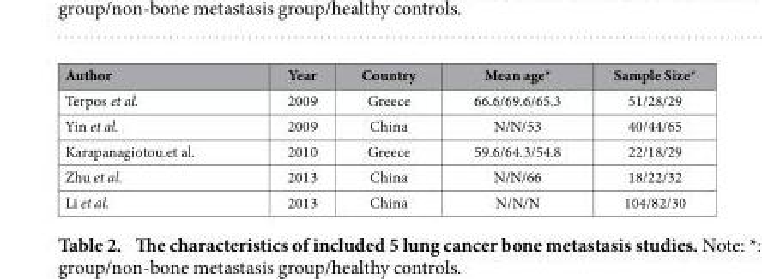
<table><thead><tr><td>Author</td><td>Year</td><td>Country</td><td>Mean age*</td><td>Sample Size*</td></tr></thead><tbody><tr><td>Terpos et al.</td><td>2009</td><td>Greece</td><td>66.6/69.6/65.3</td><td>51/28/29</td></tr><tr><td>Yin et al.</td><td>2009</td><td>China</td><td>N/N/53</td><td>40/44/65</td></tr><tr><td>Karapanagiotou.et al.</td><td>2010</td><td>Greece</td><td>59.6/64.3/54.8</td><td>22/18/29</td></tr><tr><td>Zhu et al.</td><td>2013</td><td>China</td><td>N/N/66</td><td>18/22/32</td></tr><tr><td>Li et al.</td><td>2013</td><td>China</td><td>N/N/N</td><td>104/82/30</td></tr></tbody></table>